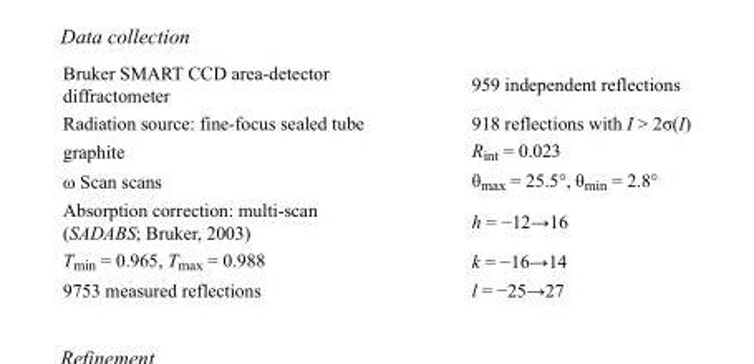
<table><tbody><tr><td>Bruker SMART CCD area-detector diffractometer</td><td>959 independent reflections</td></tr><tr><td>Radiation source: fine-focus sealed tube</td><td>918 reflections with I &gt; 2σ(I)</td></tr><tr><td>graphite</td><td>R<sub>int</sub> = 0.023</td></tr><tr><td>ω Scan scans</td><td>θ<sub>max</sub> = 25.5°, θ<sub>min</sub> = 2.8°</td></tr><tr><td>Absorption correction: multi-scan (SADABS; Bruker, 2003)</td><td>h = −12→16</td></tr><tr><td>T<sub>min</sub> = 0.965, T<sub>max</sub> = 0.988</td><td>k = −16→14</td></tr><tr><td>9753 measured reflections</td><td>l = −25→27</td></tr></tbody></table>